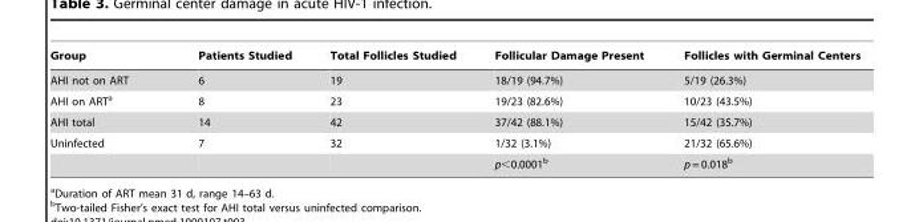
<table><thead><tr><td>Group</td><td>Patients Studied</td><td>Total Follicles Studied</td><td>Follicular Damage Present</td><td>Follicles with Germinal Centers</td></tr></thead><tbody><tr><td>AHI not on ART</td><td>6</td><td>19</td><td>18/19 (94.7%)</td><td>5/19 (26.3%)</td></tr><tr><td>AHI on ART<sup>a</sup></td><td>8</td><td>23</td><td>19/23 (82.6%)</td><td>10/23 (43.5%)</td></tr><tr><td>AHI total</td><td>14</td><td>42</td><td>37/42 (88.1%)</td><td>15/42 (35.7%)</td></tr><tr><td rowspan="2">Uninfected</td><td>7</td><td>32</td><td>1/32 (3.1%)</td><td>21/32 (65.6%)</td></tr><tr><td></td><td></td><td>p&lt;0.0001<sup>b</sup></td><td>p = 0.018<sup>b</sup></td></tr></tbody></table>